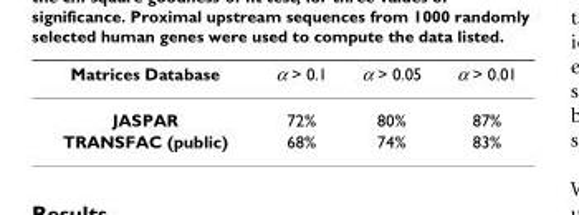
<table><thead><tr><td>Matrices Database</td><td>α &gt; 0.1</td><td>α &gt; 0.05</td><td>α &gt; 0.01</td></tr></thead><tbody><tr><td>JASPAR</td><td>72%</td><td>80%</td><td>87%</td></tr><tr><td>TRANSFAC (public)</td><td>68%</td><td>74%</td><td>83%</td></tr></tbody></table>